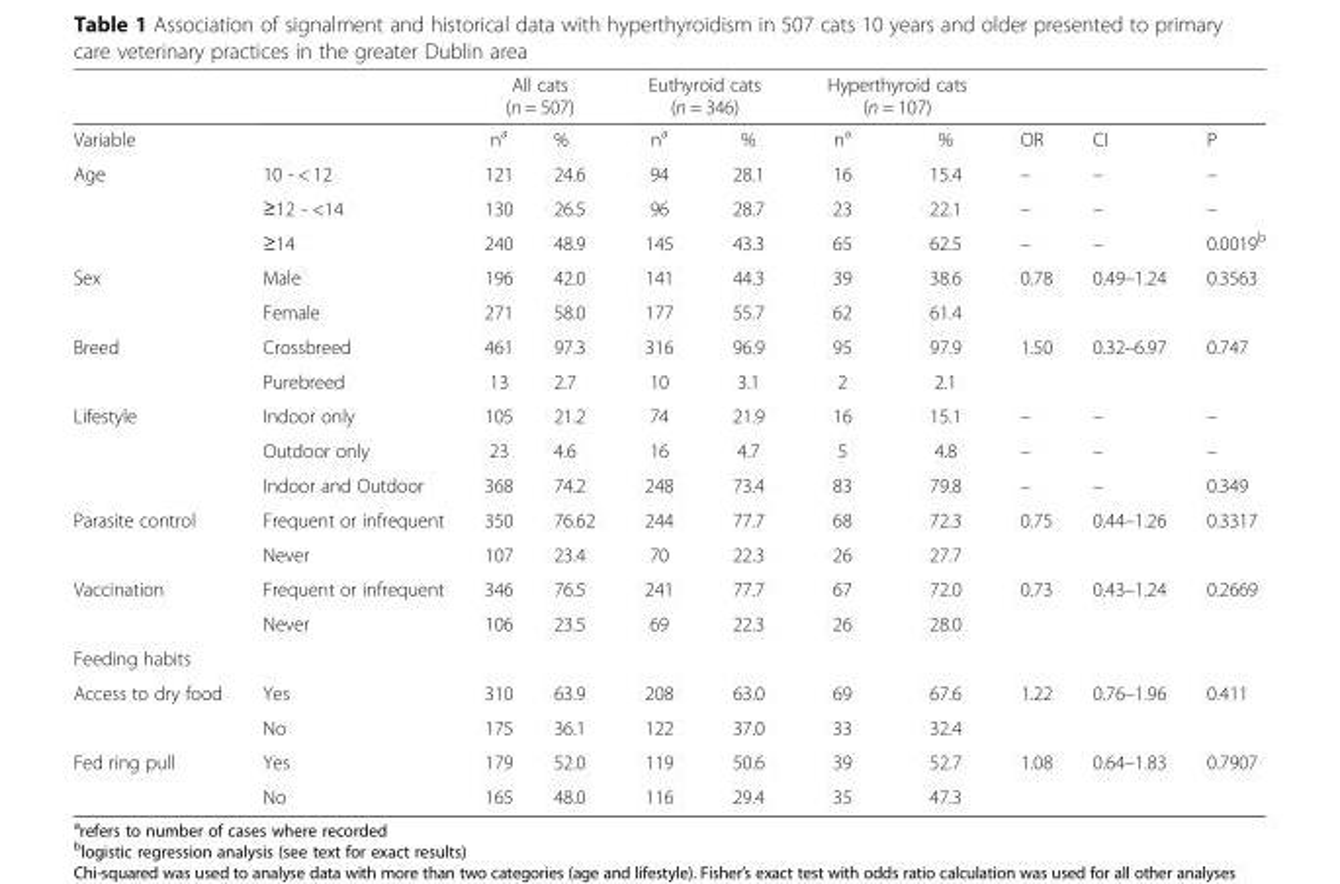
<table><thead><tr><td rowspan="2">Variable</td><td rowspan="2"></td><td colspan="2">All cats (n = 507)</td><td colspan="2">Euthyroid cats (n = 346)</td><td colspan="2">Hyperthyroid cats (n = 107)</td><td rowspan="2">OR</td><td rowspan="2">CI</td><td rowspan="2">P</td></tr><tr><td>n<sup>a</sup></td><td>%</td><td>n<sup>a</sup></td><td>%</td><td>n<sup>a</sup></td><td>%</td></tr></thead><tbody><tr><td rowspan="3">Age</td><td>10 - &lt; 12</td><td>121</td><td>24.6</td><td>94</td><td>28.1</td><td>16</td><td>15.4</td><td>–</td><td>–</td><td>–</td></tr><tr><td>≥12 - &lt;14</td><td>130</td><td>26.5</td><td>96</td><td>28.7</td><td>23</td><td>22.1</td><td>–</td><td>–</td><td>–</td></tr><tr><td>≥14</td><td>240</td><td>48.9</td><td>145</td><td>43.3</td><td>65</td><td>62.5</td><td>–</td><td>–</td><td>0.0019<sup>b</sup></td></tr><tr><td rowspan="2">Sex</td><td>Male</td><td>196</td><td>42.0</td><td>141</td><td>44.3</td><td>39</td><td>38.6</td><td>0.78</td><td>0.49–1.24</td><td>0.3563</td></tr><tr><td>Female</td><td>271</td><td>58.0</td><td>177</td><td>55.7</td><td>62</td><td>61.4</td><td></td><td></td><td></td></tr><tr><td rowspan="2">Breed</td><td>Crossbreed</td><td>461</td><td>97.3</td><td>316</td><td>96.9</td><td>95</td><td>97.9</td><td>1.50</td><td>0.32–6.97</td><td>0.747</td></tr><tr><td>Purebreed</td><td>13</td><td>2.7</td><td>10</td><td>3.1</td><td>2</td><td>2.1</td><td></td><td></td><td></td></tr><tr><td rowspan="3">Lifestyle</td><td>Indoor only</td><td>105</td><td>21.2</td><td>74</td><td>21.9</td><td>16</td><td>15.1</td><td>–</td><td>–</td><td>–</td></tr><tr><td>Outdoor only</td><td>23</td><td>4.6</td><td>16</td><td>4.7</td><td>5</td><td>4.8</td><td>–</td><td>–</td><td>–</td></tr><tr><td>Indoor and Outdoor</td><td>368</td><td>74.2</td><td>248</td><td>73.4</td><td>83</td><td>79.8</td><td>–</td><td>–</td><td>0.349</td></tr><tr><td rowspan="2">Parasite control</td><td>Frequent or infrequent</td><td>350</td><td>76.62</td><td>244</td><td>77.7</td><td>68</td><td>72.3</td><td>0.75</td><td>0.44–1.26</td><td>0.3317</td></tr><tr><td>Never</td><td>107</td><td>23.4</td><td>70</td><td>22.3</td><td>26</td><td>27.7</td><td></td><td></td><td></td></tr><tr><td rowspan="2">Vaccination</td><td>Frequent or infrequent</td><td>346</td><td>76.5</td><td>241</td><td>77.7</td><td>67</td><td>72.0</td><td>0.73</td><td>0.43–1.24</td><td>0.2669</td></tr><tr><td>Never</td><td>106</td><td>23.5</td><td>69</td><td>22.3</td><td>26</td><td>28.0</td><td></td><td></td><td></td></tr><tr><td colspan="11">Feeding habits</td></tr><tr><td rowspan="2">Access to dry food</td><td>Yes</td><td>310</td><td>63.9</td><td>208</td><td>63.0</td><td>69</td><td>67.6</td><td>1.22</td><td>0.76–1.96</td><td>0.411</td></tr><tr><td>No</td><td>175</td><td>36.1</td><td>122</td><td>37.0</td><td>33</td><td>32.4</td><td></td><td></td><td></td></tr><tr><td rowspan="2">Fed ring pull</td><td>Yes</td><td>179</td><td>52.0</td><td>119</td><td>50.6</td><td>39</td><td>52.7</td><td>1.08</td><td>0.64–1.83</td><td>0.7907</td></tr><tr><td>No</td><td>165</td><td>48.0</td><td>116</td><td>29.4</td><td>35</td><td>47.3</td><td></td><td></td><td></td></tr></tbody></table>